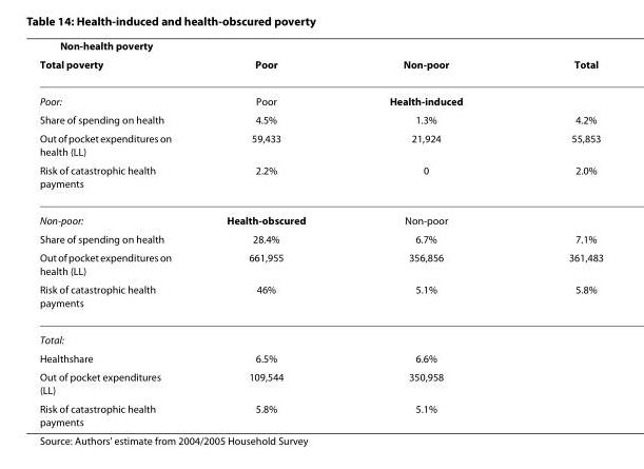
<table><thead><tr><td rowspan="2">Non-health poverty Total poverty</td><td rowspan="2">Poor</td><td rowspan="2">Non-poor</td><td rowspan="2">Total</td></tr><tr></tr></thead><tbody><tr><td>Poor:</td><td>Poor</td><td>Health-induced</td><td></td></tr><tr><td>Share of spending on health</td><td>4.5%</td><td>1.3%</td><td>4.2%</td></tr><tr><td>Out of pocket expenditures on health (LL)</td><td>59,433</td><td>21,924</td><td>55,853</td></tr><tr><td>Risk of catastrophic health payments</td><td>2.2%</td><td>0</td><td>2.0%</td></tr><tr><td>Non-poor:</td><td>Health-obscured</td><td>Non-poor</td><td></td></tr><tr><td>Share of spending on health</td><td>28.4%</td><td>6.7%</td><td>7.1%</td></tr><tr><td>Out of pocket expenditures on health (LL)</td><td>661,955</td><td>356,856</td><td>361,483</td></tr><tr><td>Risk of catastrophic health payments</td><td>46%</td><td>5.1%</td><td>5.8%</td></tr><tr><td colspan="4">Total:</td></tr><tr><td>Healthshare</td><td>6.5%</td><td>6.6%</td><td></td></tr><tr><td>Out of pocket expenditures (LL)</td><td>109,544</td><td>350,958</td><td></td></tr><tr><td>Risk of catastrophic health payments</td><td>5.8%</td><td>5.1%</td><td></td></tr></tbody></table>